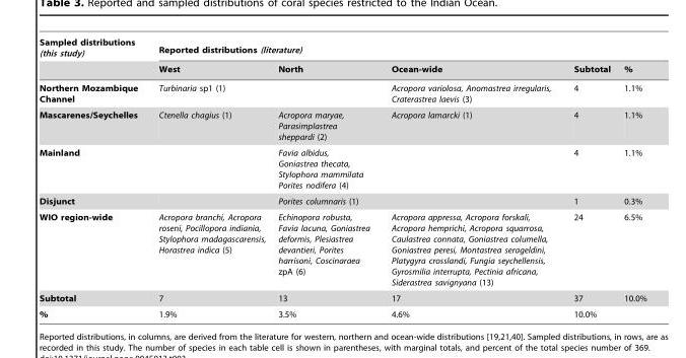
<table><thead><tr><td rowspan="2">Sampled distributions (this study)</td><td colspan="5">Reported distributions (literature)</td></tr><tr><td>West</td><td>North</td><td>Ocean-wide</td><td>Subtotal</td><td>%</td></tr></thead><tbody><tr><td>Northern Mozambique Channel</td><td>Turbinaria sp1 (1)</td><td></td><td>Acropora variolosa, Anomastrea irregularis, Craterastrea laevis (3)</td><td>4</td><td>1.1%</td></tr><tr><td>Mascarenes/Seychelles</td><td>Ctenella chagius (1)</td><td>Acropora maryae, Parasimplastrea sheppardi (2)</td><td>Acropora lamarcki (1)</td><td>4</td><td>1.1%</td></tr><tr><td>Mainland</td><td></td><td>Favia albidus, Goniastrea thecata, Stylophora mammilata Porites nodifera (4)</td><td></td><td>4</td><td>1.1%</td></tr><tr><td>Disjunct</td><td></td><td>Porites columnaris (1)</td><td></td><td>1</td><td>0.3%</td></tr><tr><td>WIO region-wide</td><td>Acropora branchi, Acropora roseni, Pocillopora indiania, Stylophora madagascarensis, Horastrea indica (5)</td><td>Echinopora robusta, Favia lacuna, Goniastrea deformis, Plesiastrea devantieri, Porites harrisoni, Coscinaraea zpA (6)</td><td>Acropora appressa, Acropora forskali, Acropora hemprichi, Acropora squarrosa, Caulastrea connata, Goniastrea columella, Goniastrea peresi, Montastrea serageldini, Platygyra crosslandi, Fungia seychellensis, Gyrosmilia interrupta, Pectinia africana, Siderastrea savignyana (13)</td><td>24</td><td>6.5%</td></tr><tr><td>Subtotal</td><td>7</td><td>13</td><td>17</td><td>37</td><td>10.0%</td></tr><tr><td>%</td><td>1.9%</td><td>3.5%</td><td>4.6%</td><td>10.0%</td><td></td></tr></tbody></table>